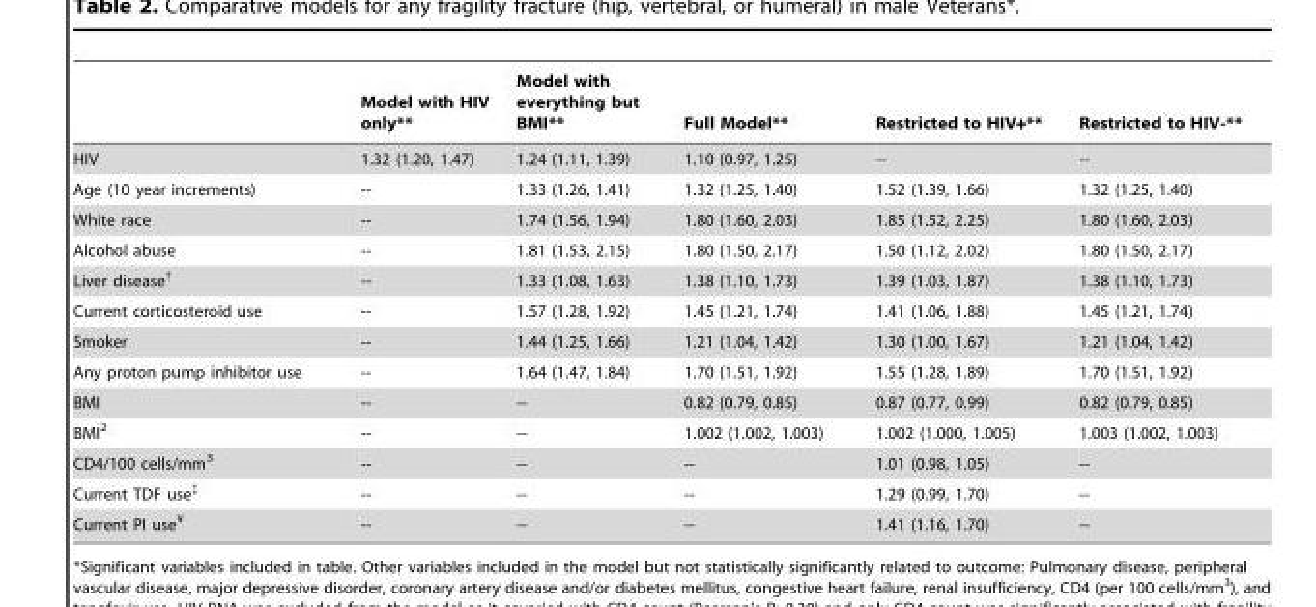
<table><thead><tr><td></td><td>Model with HIV only**</td><td>Model with everything but BMI**</td><td>Full Model**</td><td>Restricted to HIV+**</td><td>Restricted to HIV-**</td></tr></thead><tbody><tr><td>HIV</td><td>1.32 (1.20, 1.47)</td><td>1.24 (1.11, 1.39)</td><td>1.10 (0.97, 1.25)</td><td>--</td><td>--</td></tr><tr><td>Age (10 year increments)</td><td>--</td><td>1.33 (1.26, 1.41)</td><td>1.32 (1.25, 1.40)</td><td>1.52 (1.39, 1.66)</td><td>1.32 (1.25, 1.40)</td></tr><tr><td>White race</td><td>--</td><td>1.74 (1.56, 1.94)</td><td>1.80 (1.60, 2.03)</td><td>1.85 (1.52, 2.25)</td><td>1.80 (1.60, 2.03)</td></tr><tr><td>Alcohol abuse</td><td>--</td><td>1.81 (1.53, 2.15)</td><td>1.80 (1.50, 2.17)</td><td>1.50 (1.12, 2.02)</td><td>1.80 (1.50, 2.17)</td></tr><tr><td>Liver disease†</td><td>--</td><td>1.33 (1.08, 1.63)</td><td>1.38 (1.10, 1.73)</td><td>1.39 (1.03, 1.87)</td><td>1.38 (1.10, 1.73)</td></tr><tr><td>Current corticosteroid use</td><td>--</td><td>1.57 (1.28, 1.92)</td><td>1.45 (1.21, 1.74)</td><td>1.41 (1.06, 1.88)</td><td>1.45 (1.21, 1.74)</td></tr><tr><td>Smoker</td><td>--</td><td>1.44 (1.25, 1.66)</td><td>1.21 (1.04, 1.42)</td><td>1.30 (1.00, 1.67)</td><td>1.21 (1.04, 1.42)</td></tr><tr><td>Any proton pump inhibitor use</td><td>--</td><td>1.64 (1.47, 1.84)</td><td>1.70 (1.51, 1.92)</td><td>1.55 (1.28, 1.89)</td><td>1.70 (1.51, 1.92)</td></tr><tr><td>BMI</td><td>--</td><td>--</td><td>0.82 (0.79, 0.85)</td><td>0.87 (0.77, 0.99)</td><td>0.82 (0.79, 0.85)</td></tr><tr><td>BMI<sup>2</sup></td><td>--</td><td>--</td><td>1.002 (1.002, 1.003)</td><td>1.002 (1.000, 1.005)</td><td>1.003 (1.002, 1.003)</td></tr><tr><td>CD4/100 cells/mm<sup>3</sup></td><td>--</td><td>--</td><td>--</td><td>1.01 (0.98, 1.05)</td><td>--</td></tr><tr><td>Current TDF use‡</td><td>--</td><td>--</td><td>--</td><td>1.29 (0.99, 1.70)</td><td>--</td></tr><tr><td>Current PI use¥</td><td>--</td><td>--</td><td>--</td><td>1.41 (1.16, 1.70)</td><td>--</td></tr></tbody></table>